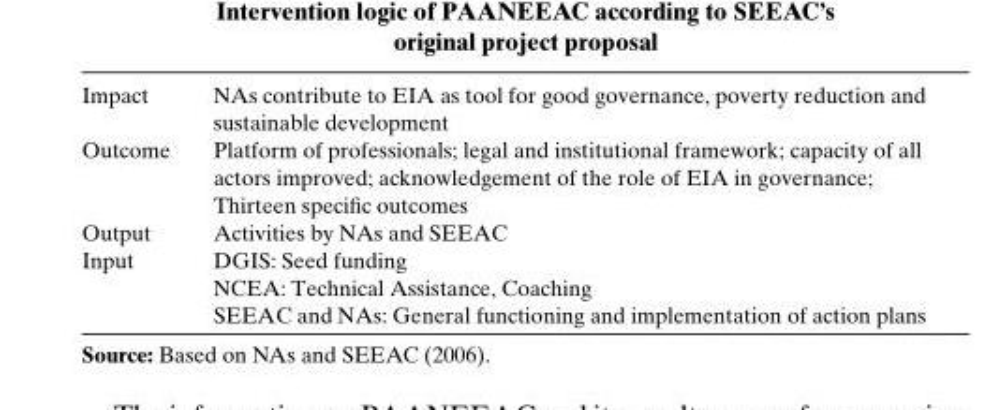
<table><thead><tr><td>Impact</td><td>NAs contribute to EIA as tool for good governance, poverty reduction and sustainable development</td></tr></thead><tbody><tr><td rowspan="2">Outcome</td><td>Platform of professionals; legal and institutional framework; capacity of all actors improved; acknowledgement of the role of EIA in governance;</td></tr><tr><td>Thirteen specific outcomes</td></tr><tr><td>Output</td><td>Activities by NAs and SEEAC</td></tr><tr><td rowspan="3">Input</td><td>DGIS: Seed funding</td></tr><tr><td>NCEA: Technical Assistance, Coaching</td></tr><tr><td>SEEAC and NAs: General functioning and implementation of action plans</td></tr></tbody></table>